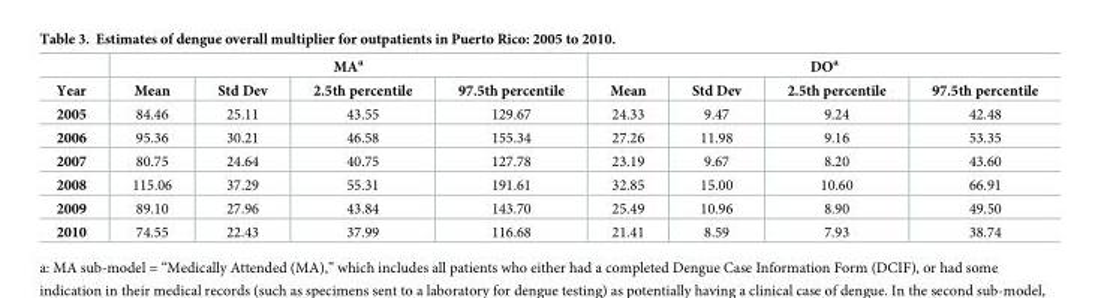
<table><thead><tr><td rowspan="2">Year</td><td colspan="4">MA<sup>a</sup></td><td colspan="4">DO<sup>a</sup></td></tr><tr><td>Mean</td><td>Std Dev</td><td>2.5th percentile</td><td>97.5th percentile</td><td>Mean</td><td>Std Dev</td><td>2.5th percentile</td><td>97.5th percentile</td></tr></thead><tbody><tr><td>2005</td><td>84.46</td><td>25.11</td><td>43.55</td><td>129.67</td><td>24.33</td><td>9.47</td><td>9.24</td><td>42.48</td></tr><tr><td>2006</td><td>95.36</td><td>30.21</td><td>46.58</td><td>155.34</td><td>27.26</td><td>11.98</td><td>9.16</td><td>53.35</td></tr><tr><td>2007</td><td>80.75</td><td>24.64</td><td>40.75</td><td>127.78</td><td>23.19</td><td>9.67</td><td>8.20</td><td>43.60</td></tr><tr><td>2008</td><td>115.06</td><td>37.29</td><td>55.31</td><td>191.61</td><td>32.85</td><td>15.00</td><td>10.60</td><td>66.91</td></tr><tr><td>2009</td><td>89.10</td><td>27.96</td><td>43.84</td><td>143.70</td><td>25.49</td><td>10.96</td><td>8.90</td><td>49.50</td></tr><tr><td>2010</td><td>74.55</td><td>22.43</td><td>37.99</td><td>116.68</td><td>21.41</td><td>8.59</td><td>7.93</td><td>38.74</td></tr></tbody></table>